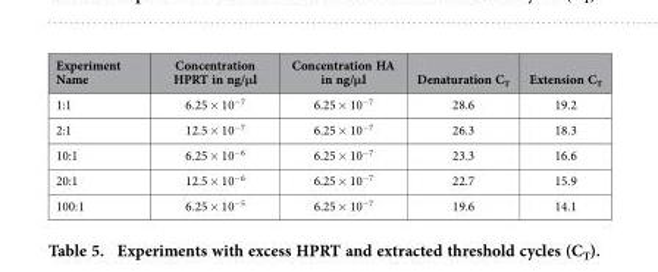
<table><thead><tr><td>Experiment Name</td><td>Concentration HPRT in ng/μl</td><td>Concentration HA in ng/μl</td><td>Denaturation C<sub>T</sub></td><td>Extension C<sub>T</sub></td></tr></thead><tbody><tr><td>1:1</td><td>6.25 × 10<sup>−7</sup></td><td>6.25 × 10<sup>−7</sup></td><td>28.6</td><td>19.2</td></tr><tr><td>2:1</td><td>12.5 × 10<sup>−7</sup></td><td>6.25 × 10<sup>−7</sup></td><td>26.3</td><td>18.3</td></tr><tr><td>10:1</td><td>6.25 × 10<sup>−6</sup></td><td>6.25 × 10<sup>−7</sup></td><td>23.3</td><td>16.6</td></tr><tr><td>20:1</td><td>12.5 × 10<sup>−6</sup></td><td>6.25 × 10<sup>−7</sup></td><td>22.7</td><td>15.9</td></tr><tr><td>100:1</td><td>6.25 × 10<sup>−5</sup></td><td>6.25 × 10<sup>−7</sup></td><td>19.6</td><td>14.1</td></tr></tbody></table>